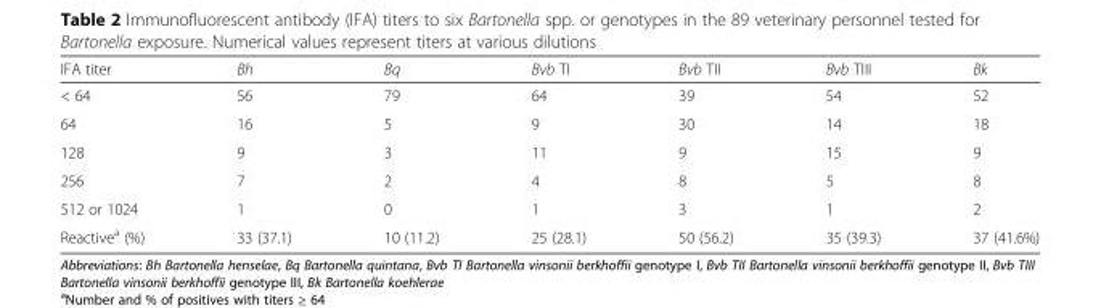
<table><thead><tr><td>IFA titer</td><td>Bh</td><td>Bq</td><td>Bvb TI</td><td>Bvb TII</td><td>Bvb TIII</td><td>Bk</td></tr></thead><tbody><tr><td>&lt; 64</td><td>56</td><td>79</td><td>64</td><td>39</td><td>54</td><td>52</td></tr><tr><td>64</td><td>16</td><td>5</td><td>9</td><td>30</td><td>14</td><td>18</td></tr><tr><td>128</td><td>9</td><td>3</td><td>11</td><td>9</td><td>15</td><td>9</td></tr><tr><td>256</td><td>7</td><td>2</td><td>4</td><td>8</td><td>5</td><td>8</td></tr><tr><td>512 or 1024</td><td>1</td><td>0</td><td>1</td><td>3</td><td>1</td><td>2</td></tr><tr><td>Reactive<sup>a</sup> (%)</td><td>33 (37.1)</td><td>10 (11.2)</td><td>25 (28.1)</td><td>50 (56.2)</td><td>35 (39.3)</td><td>37 (41.6%)</td></tr></tbody></table>